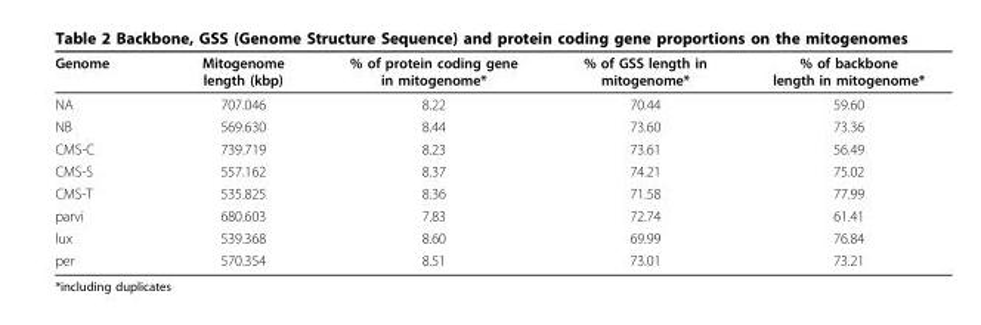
<table><thead><tr><td>Genome</td><td>Mitogenome length (kbp)</td><td>% of protein coding gene in mitogenome*</td><td>% of GSS length in mitogenome*</td><td>% of backbone length in mitogenome*</td></tr></thead><tbody><tr><td>NA</td><td>707.046</td><td>8.22</td><td>70.44</td><td>59.60</td></tr><tr><td>NB</td><td>569.630</td><td>8.44</td><td>73.60</td><td>73.36</td></tr><tr><td>CMS-C</td><td>739.719</td><td>8.23</td><td>73.61</td><td>56.49</td></tr><tr><td>CMS-S</td><td>557.162</td><td>8.37</td><td>74.21</td><td>75.02</td></tr><tr><td>CMS-T</td><td>535.825</td><td>8.36</td><td>71.58</td><td>77.99</td></tr><tr><td>parvi</td><td>680.603</td><td>7.83</td><td>72.74</td><td>61.41</td></tr><tr><td>lux</td><td>539.368</td><td>8.60</td><td>69.99</td><td>76.84</td></tr><tr><td>per</td><td>570.354</td><td>8.51</td><td>73.01</td><td>73.21</td></tr></tbody></table>